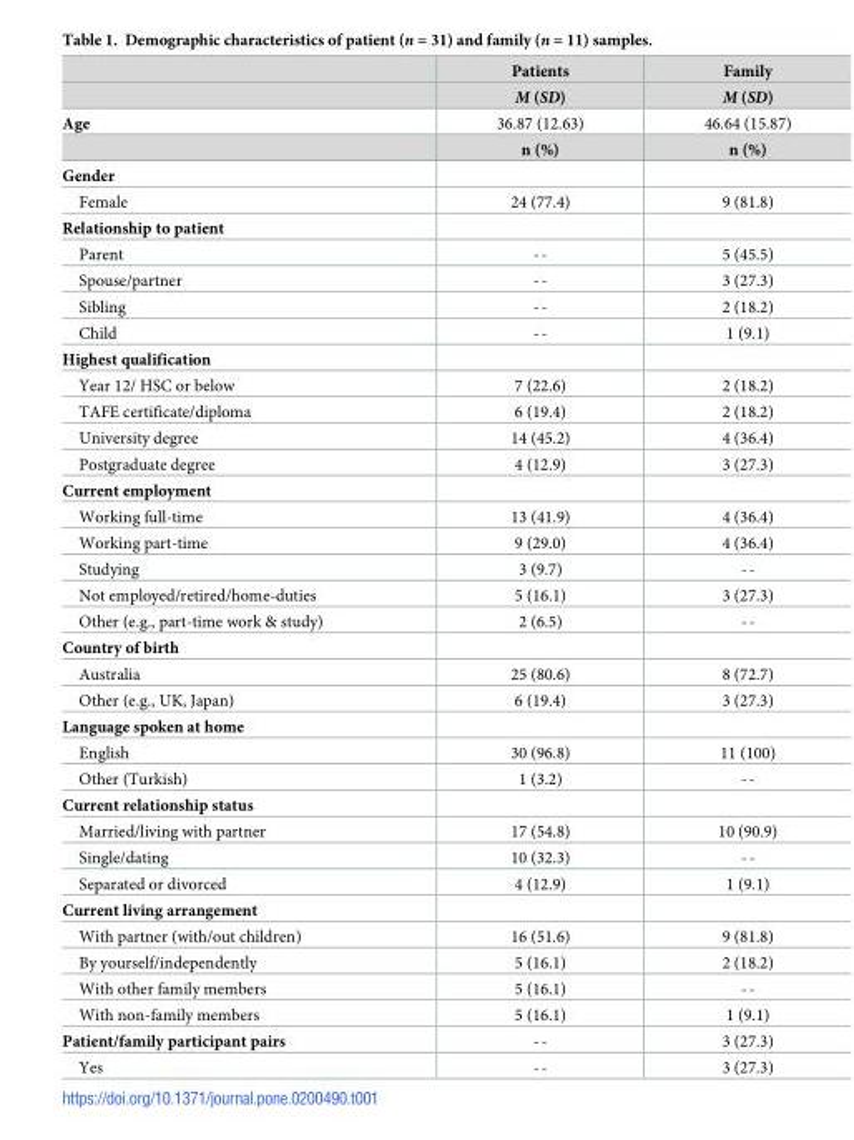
<table><thead><tr><td></td><td>Patients</td><td>Family</td></tr></thead><tbody><tr><td></td><td>M (SD)</td><td>M (SD)</td></tr><tr><td rowspan="2">Age</td><td>36.87 (12.63)</td><td>46.64 (15.87)</td></tr><tr><td>n (%)</td><td>n (%)</td></tr><tr><td colspan="3">Gender</td></tr><tr><td>Female</td><td>24 (77.4)</td><td>9 (81.8)</td></tr><tr><td colspan="3">Relationship to patient</td></tr><tr><td>Parent</td><td>--</td><td>5 (45.5)</td></tr><tr><td>Spouse/partner</td><td>--</td><td>3 (27.3)</td></tr><tr><td>Sibling</td><td>--</td><td>2 (18.2)</td></tr><tr><td>Child</td><td>--</td><td>1 (9.1)</td></tr><tr><td colspan="3">Highest qualification</td></tr><tr><td>Year 12/ HSC or below</td><td>7 (22.6)</td><td>2 (18.2)</td></tr><tr><td>TAFE certificate/diploma</td><td>6 (19.4)</td><td>2 (18.2)</td></tr><tr><td>University degree</td><td>14 (45.2)</td><td>4 (36.4)</td></tr><tr><td>Postgraduate degree</td><td>4 (12.9)</td><td>3 (27.3)</td></tr><tr><td colspan="3">Current employment</td></tr><tr><td>Working full-time</td><td>13 (41.9)</td><td>4 (36.4)</td></tr><tr><td>Working part-time</td><td>9 (29.0)</td><td>4 (36.4)</td></tr><tr><td>Studying</td><td>3 (9.7)</td><td>--</td></tr><tr><td>Not employed/retired/home-duties</td><td>5 (16.1)</td><td>3 (27.3)</td></tr><tr><td>Other (e.g., part-time work &amp; study)</td><td>2 (6.5)</td><td>--</td></tr><tr><td colspan="3">Country of birth</td></tr><tr><td>Australia</td><td>25 (80.6)</td><td>8 (72.7)</td></tr><tr><td>Other (e.g., UK, Japan)</td><td>6 (19.4)</td><td>3 (27.3)</td></tr><tr><td colspan="3">Language spoken at home</td></tr><tr><td>English</td><td>30 (96.8)</td><td>11 (100)</td></tr><tr><td>Other (Turkish)</td><td>1 (3.2)</td><td>--</td></tr><tr><td colspan="3">Current relationship status</td></tr><tr><td>Married/living with partner</td><td>17 (54.8)</td><td>10 (90.9)</td></tr><tr><td>Single/dating</td><td>10 (32.3)</td><td>--</td></tr><tr><td>Separated or divorced</td><td>4 (12.9)</td><td>1 (9.1)</td></tr><tr><td colspan="3">Current living arrangement</td></tr><tr><td>With partner (with/out children)</td><td>16 (51.6)</td><td>9 (81.8)</td></tr><tr><td>By yourself/independently</td><td>5 (16.1)</td><td>2 (18.2)</td></tr><tr><td>With other family members</td><td>5 (16.1)</td><td>--</td></tr><tr><td>With non-family members</td><td>5 (16.1)</td><td>1 (9.1)</td></tr><tr><td>Patient/family participant pairs</td><td>--</td><td>3 (27.3)</td></tr><tr><td>Yes</td><td>--</td><td>3 (27.3)</td></tr></tbody></table>